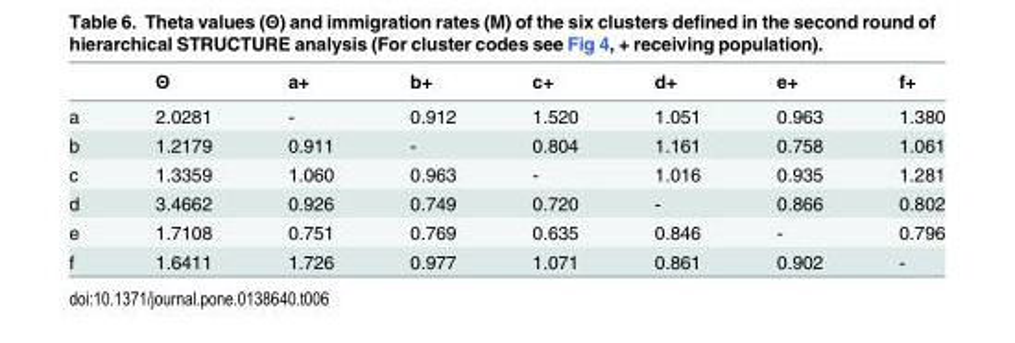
<table><thead><tr><td></td><td>Θ</td><td>a+</td><td>b+</td><td>c+</td><td>d+</td><td>e+</td><td>f+</td></tr></thead><tbody><tr><td>a</td><td>2.0281</td><td>-</td><td>0.912</td><td>1.520</td><td>1.051</td><td>0.963</td><td>1.380</td></tr><tr><td>b</td><td>1.2179</td><td>0.911</td><td>-</td><td>0.804</td><td>1.161</td><td>0.758</td><td>1.061</td></tr><tr><td>c</td><td>1.3359</td><td>1.060</td><td>0.963</td><td>-</td><td>1.016</td><td>0.935</td><td>1.281</td></tr><tr><td>d</td><td>3.4662</td><td>0.926</td><td>0.749</td><td>0.720</td><td>-</td><td>0.866</td><td>0.802</td></tr><tr><td>e</td><td>1.7108</td><td>0.751</td><td>0.769</td><td>0.635</td><td>0.846</td><td>-</td><td>0.796</td></tr><tr><td>f</td><td>1.6411</td><td>1.726</td><td>0.977</td><td>1.071</td><td>0.861</td><td>0.902</td><td>-</td></tr></tbody></table>